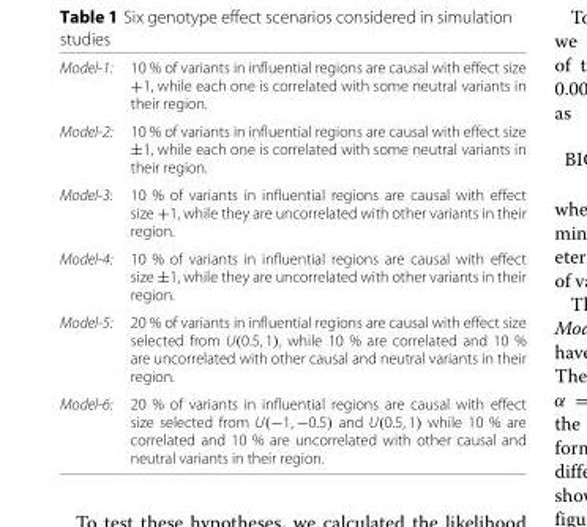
<table><tbody><tr><td>Model-1:</td><td>10 % of variants in influential regions are causal with effect size +1, while each one is correlated with some neutral variants in their region.</td></tr><tr><td>Model-2:</td><td>10 % of variants in influential regions are causal with effect size ±1, while each one is correlated with some neutral variants in their region.</td></tr><tr><td>Model-3:</td><td>10 % of variants in influential regions are causal with effect size +1, while they are uncorrelated with other variants in their region.</td></tr><tr><td>Model-4:</td><td>10 % of variants in influential regions are causal with effect size ±1, while they are uncorrelated with other variants in their region.</td></tr><tr><td>Model-5:</td><td>20 % of variants in influential regions are causal with effect size selected from U(0.5, 1), while 10 % are correlated and 10 % are uncorrelated with other causal and neutral variants in their region.</td></tr><tr><td>Model-6:</td><td>20 % of variants in influential regions are causal with effect size selected from U(−1, −0.5) and U(0.5, 1) while 10 % are correlated and 10 % are uncorrelated with other causal and neutral variants in their region.</td></tr></tbody></table>